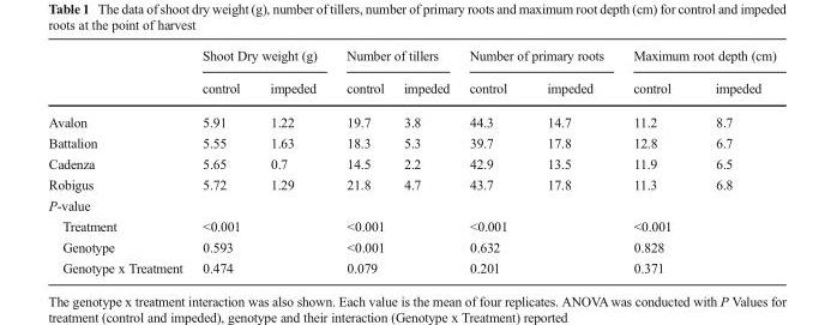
<table><thead><tr><td rowspan="2"></td><td colspan="2">Shoot Dry weight (g)</td><td colspan="2">Number of tillers</td><td colspan="2">Number of primary roots</td><td colspan="2">Maximum root depth (cm)</td></tr><tr><td>control</td><td>impeded</td><td>control</td><td>impeded</td><td>control</td><td>impeded</td><td>control</td><td>impeded</td></tr></thead><tbody><tr><td>Avalon</td><td>5.91</td><td>1.22</td><td>19.7</td><td>3.8</td><td>44.3</td><td>14.7</td><td>11.2</td><td>8.7</td></tr><tr><td>Battalion</td><td>5.55</td><td>1.63</td><td>18.3</td><td>5.3</td><td>39.7</td><td>17.8</td><td>12.8</td><td>6.7</td></tr><tr><td>Cadenza</td><td>5.65</td><td>0.7</td><td>14.5</td><td>2.2</td><td>42.9</td><td>13.5</td><td>11.9</td><td>6.5</td></tr><tr><td>Robigus</td><td>5.72</td><td>1.29</td><td>21.8</td><td>4.7</td><td>43.7</td><td>17.8</td><td>11.3</td><td>6.8</td></tr><tr><td colspan="9">P-value</td></tr><tr><td>Treatment</td><td colspan="2">&lt;0.001</td><td colspan="2">&lt;0.001</td><td colspan="2">&lt;0.001</td><td colspan="2">&lt;0.001</td></tr><tr><td>Genotype</td><td colspan="2">0.593</td><td colspan="2">&lt;0.001</td><td colspan="2">0.632</td><td colspan="2">0.828</td></tr><tr><td>Genotype x Treatment</td><td colspan="2">0.474</td><td colspan="2">0.079</td><td colspan="2">0.201</td><td colspan="2">0.371</td></tr></tbody></table>